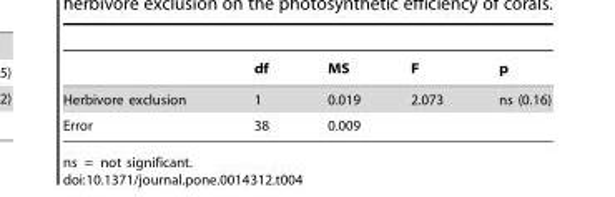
<table><thead><tr><td></td><td>df</td><td>MS</td><td>F</td><td>p</td></tr></thead><tbody><tr><td>Herbivore exclusion</td><td>1</td><td>0.019</td><td>2.073</td><td>ns (0.16)</td></tr><tr><td>Error</td><td>38</td><td>0.009</td><td></td><td></td></tr></tbody></table>